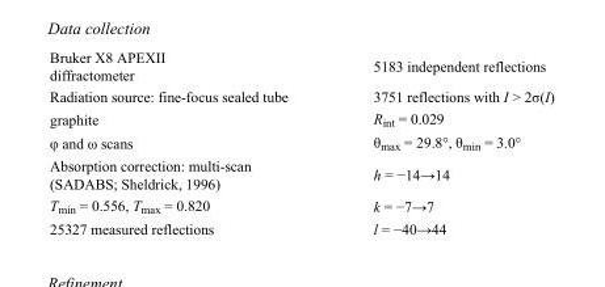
<table><tbody><tr><td>Bruker X8 APEXII diffractometer</td><td>5183 independent reflections</td></tr><tr><td>Radiation source: fine-focus sealed tube</td><td>3751 reflections with I &gt; 2σ(I)</td></tr><tr><td>graphite</td><td>R<sub>int</sub> = 0.029</td></tr><tr><td>φ and ω scans</td><td>θ<sub>max</sub> = 29.8°, θ<sub>min</sub> = 3.0°</td></tr><tr><td>Absorption correction: multi-scan (SADABS; Sheldrick, 1996)</td><td>h = −14→14</td></tr><tr><td>T<sub>min</sub> = 0.556, T<sub>max</sub> = 0.820</td><td>k = −7→7</td></tr><tr><td>25327 measured reflections</td><td>l = −40→44</td></tr></tbody></table>